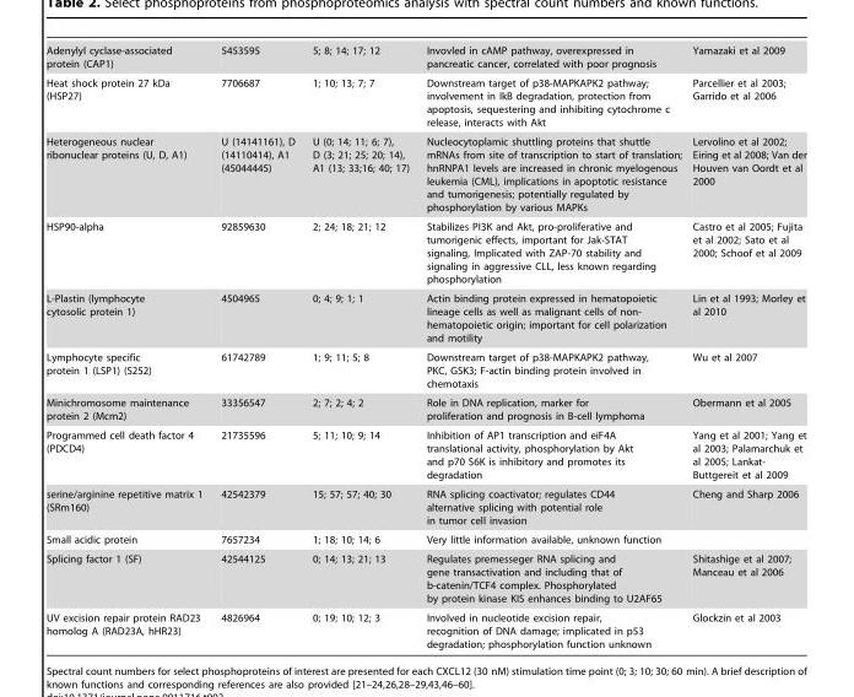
<table><tbody><tr><td>Adenylyl cyclase-associated protein (CAP1)</td><td>5453595</td><td>5; 8; 14; 17; 12</td><td>Invovled in cAMP pathway, overexpressed in pancreatic cancer, correlated with poor prognosis</td><td>Yamazaki et al 2009</td></tr><tr><td>Heat shock protein 27 kDa (HSP27)</td><td>7706687</td><td>1; 10; 13; 7; 7</td><td>Downstream target of p38-MAPKAPK2 pathway; involvement in IkB degradation, protection from apoptosis, sequestering and inhibiting cytochrome c release, interacts with Akt</td><td>Parcellier et al 2003; Garrido et al 2006</td></tr><tr><td>Heterogeneous nuclear ribonuclear proteins (U, D, A1)</td><td>U (14141161), D (14110414), A1 (45044445)</td><td>U (0; 14; 11; 6; 7), D (3; 21; 25; 20; 14), A1 (13; 33;16; 40; 17)</td><td>Nucleocytoplamic shuttling proteins that shuttle mRNAs from site of transcription to start of translation; hnRNPA1 levels are increased in chronic myelogenous leukemia (CML), implications in apoptotic resistance and tumorigenesis; potentially regulated by phosphorylation by various MAPKs</td><td>Lervolino et al 2002; Eiring et al 2008; Van der Houven van Oordt et al 2000</td></tr><tr><td>HSP90-alpha</td><td>92859630</td><td>2; 24; 18; 21; 12</td><td>Stabilizes PI3K and Akt, pro-proliferative and tumorigenic effects, important for Jak-STAT signaling, Implicated with ZAP-70 stability and signaling in aggressive CLL, less known regarding phosphorylation</td><td>Castro et al 2005; Fujita et al 2002; Sato et al 2000; Schoof et al 2009</td></tr><tr><td>L-Plastin (lymphocyte cytosolic protein 1)</td><td>4504965</td><td>0; 4; 9; 1; 1</td><td>Actin binding protein expressed in hematopoietic lineage cells as well as malignant cells of non- hematopoietic origin; important for cell polarization and motility</td><td>Lin et al 1993; Morley et al 2010</td></tr><tr><td>Lymphocyte specific protein 1 (LSP1) (S252)</td><td>61742789</td><td>1; 9; 11; 5; 8</td><td>Downstream target of p38-MAPKAPK2 pathway, PKC, GSK3; F-actin binding protein involved in chemotaxis</td><td>Wu et al 2007</td></tr><tr><td>Minichromosome maintenance protein 2 (Mcm2)</td><td>33356547</td><td>2; 7; 2; 4; 2</td><td>Role in DNA replication, marker for proliferation and prognosis in B-cell lymphoma</td><td>Obermann et al 2005</td></tr><tr><td>Programmed cell death factor 4 (PDCD4)</td><td>21735596</td><td>5; 11; 10; 9; 14</td><td>Inhibition of AP1 transcription and eiF4A translational activity, phosphorylation by Akt and p70 S6K is inhibitory and promotes its degradation</td><td>Yang et al 2001; Yang et al 2003; Palamarchuk et al 2005; Lankat- Buttgereit et al 2009</td></tr><tr><td>serine/arginine repetitive matrix 1 (SRm160)</td><td>42542379</td><td>15; 57; 57; 40; 30</td><td>RNA splicing coactivator; regulates CD44 alternative splicing with potential role in tumor cell invasion</td><td>Cheng and Sharp 2006</td></tr><tr><td>Small acidic protein</td><td>7657234</td><td>1; 18; 10; 14; 6</td><td>Very little information available, unknown function</td><td></td></tr><tr><td>Splicing factor 1 (SF)</td><td>42544125</td><td>0; 14; 13; 21; 13</td><td>Regulates premesseger RNA splicing and gene transactivation and including that of b-catenin/TCF4 complex. Phosphorylated by protein kinase KIS enhances binding to U2AF65</td><td>Shitashige et al 2007; Manceau et al 2006</td></tr><tr><td>UV excision repair protein RAD23 homolog A (RAD23A, hHR23)</td><td>4826964</td><td>0; 19; 10; 12; 3</td><td>Involved in nucleotide excision repair, recognition of DNA damage; implicated in p53 degradation; phosphorylation function unknown</td><td>Glockzin et al 2003</td></tr></tbody></table>